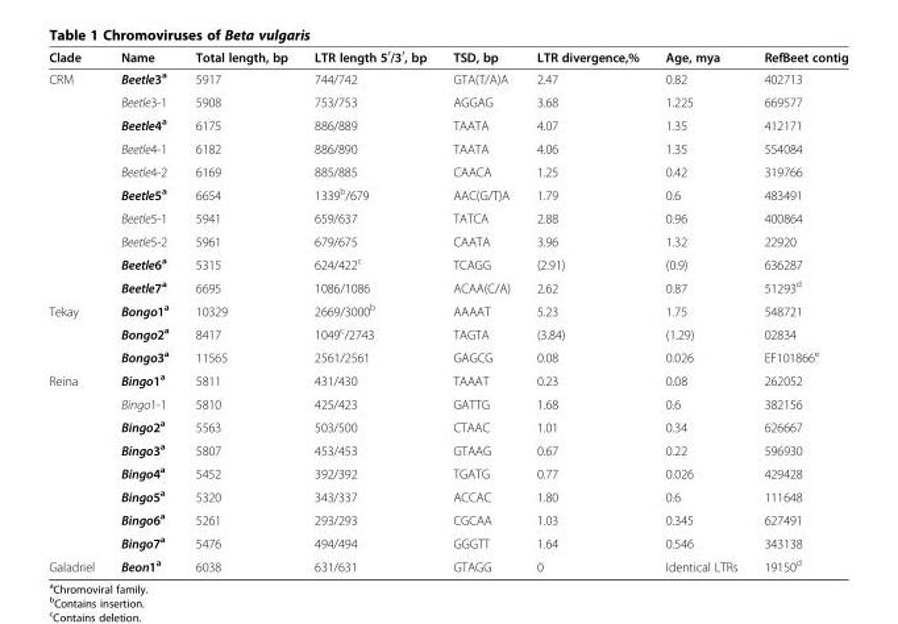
<table><thead><tr><td>Clade</td><td>Name</td><td>Total length, bp</td><td>LTR length 5<sup>′</sup>/3<sup>′</sup>, bp</td><td>TSD, bp</td><td>LTR divergence,%</td><td>Age, mya</td><td>RefBeet contig</td></tr></thead><tbody><tr><td rowspan="10">CRM</td><td>Beetle3<sup>a</sup></td><td>5917</td><td>744/742</td><td>GTA(T/A)A</td><td>2.47</td><td>0.82</td><td>402713</td></tr><tr><td>Beetle3-1</td><td>5908</td><td>753/753</td><td>AGGAG</td><td>3.68</td><td>1.225</td><td>669577</td></tr><tr><td>Beetle4<sup>a</sup></td><td>6175</td><td>886/889</td><td>TAATA</td><td>4.07</td><td>1.35</td><td>412171</td></tr><tr><td>Beetle4-1</td><td>6182</td><td>886/890</td><td>TAATA</td><td>4.06</td><td>1.35</td><td>554084</td></tr><tr><td>Beetle4-2</td><td>6169</td><td>885/885</td><td>CAACA</td><td>1.25</td><td>0.42</td><td>319766</td></tr><tr><td>Beetle5<sup>a</sup></td><td>6654</td><td>1339<sup>b</sup>/679</td><td>AAC(G/T)A</td><td>1.79</td><td>0.6</td><td>483491</td></tr><tr><td>Beetle5-1</td><td>5941</td><td>659/637</td><td>TATCA</td><td>2.88</td><td>0.96</td><td>400864</td></tr><tr><td>Beetle5-2</td><td>5961</td><td>679/675</td><td>CAATA</td><td>3.96</td><td>1.32</td><td>22920</td></tr><tr><td>Beetle6<sup>a</sup></td><td>5315</td><td>624/422<sup>c</sup></td><td>TCAGG</td><td>(2.91)</td><td>(0.9)</td><td>636287</td></tr><tr><td>Beetle7<sup>a</sup></td><td>6695</td><td>1086/1086</td><td>ACAA(C/A)</td><td>2.62</td><td>0.87</td><td>51293<sup>d</sup></td></tr><tr><td rowspan="3">Tekay</td><td>Bongo1<sup>a</sup></td><td>10329</td><td>2669/3000<sup>b</sup></td><td>AAAAT</td><td>5.23</td><td>1.75</td><td>548721</td></tr><tr><td>Bongo2<sup>a</sup></td><td>8417</td><td>1049<sup>c</sup>/2743</td><td>TAGTA</td><td>(3.84)</td><td>(1.29)</td><td>02834</td></tr><tr><td>Bongo3<sup>a</sup></td><td>11565</td><td>2561/2561</td><td>GAGCG</td><td>0.08</td><td>0.026</td><td>EF101866<sup>e</sup></td></tr><tr><td rowspan="8">Reina</td><td>Bingo1<sup>a</sup></td><td>5811</td><td>431/430</td><td>TAAAT</td><td>0.23</td><td>0.08</td><td>262052</td></tr><tr><td>Bingo1-1</td><td>5810</td><td>425/423</td><td>GATTG</td><td>1.68</td><td>0.6</td><td>382156</td></tr><tr><td>Bingo2<sup>a</sup></td><td>5563</td><td>503/500</td><td>CTAAC</td><td>1.01</td><td>0.34</td><td>626667</td></tr><tr><td>Bingo3<sup>a</sup></td><td>5807</td><td>453/453</td><td>GTAAG</td><td>0.67</td><td>0.22</td><td>596930</td></tr><tr><td>Bingo4<sup>a</sup></td><td>5452</td><td>392/392</td><td>TGATG</td><td>0.77</td><td>0.026</td><td>429428</td></tr><tr><td>Bingo5<sup>a</sup></td><td>5320</td><td>343/337</td><td>ACCAC</td><td>1.80</td><td>0.6</td><td>111648</td></tr><tr><td>Bingo6<sup>a</sup></td><td>5261</td><td>293/293</td><td>CGCAA</td><td>1.03</td><td>0.345</td><td>627491</td></tr><tr><td>Bingo7<sup>a</sup></td><td>5476</td><td>494/494</td><td>GGGTT</td><td>1.64</td><td>0.546</td><td>343138</td></tr><tr><td>Galadriel</td><td>Beon1<sup>a</sup></td><td>6038</td><td>631/631</td><td>GTAGG</td><td>0</td><td>Identical LTRs</td><td>19150<sup>d</sup></td></tr></tbody></table>